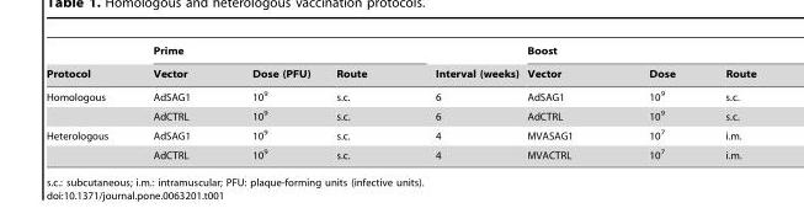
<table><thead><tr><td rowspan="2">Protocol</td><td colspan="3">Prime</td><td rowspan="2">Interval (weeks)</td><td colspan="3">Boost</td></tr><tr><td>Vector</td><td>Dose (PFU)</td><td>Route</td><td>Vector</td><td>Dose</td><td>Route</td></tr></thead><tbody><tr><td rowspan="2">Homologous</td><td>AdSAG1</td><td>10<sup>9</sup></td><td>s.c.</td><td>6</td><td>AdSAG1</td><td>10<sup>9</sup></td><td>s.c.</td></tr><tr><td>AdCTRL</td><td>10<sup>9</sup></td><td>s.c.</td><td>6</td><td>AdCTRL</td><td>10<sup>9</sup></td><td>s.c.</td></tr><tr><td rowspan="2">Heterologous</td><td>AdSAG1</td><td>10<sup>9</sup></td><td>s.c.</td><td>4</td><td>MVASAG1</td><td>10<sup>7</sup></td><td>i.m.</td></tr><tr><td>AdCTRL</td><td>10<sup>9</sup></td><td>s.c.</td><td>4</td><td>MVACTRL</td><td>10<sup>7</sup></td><td>i.m.</td></tr></tbody></table>